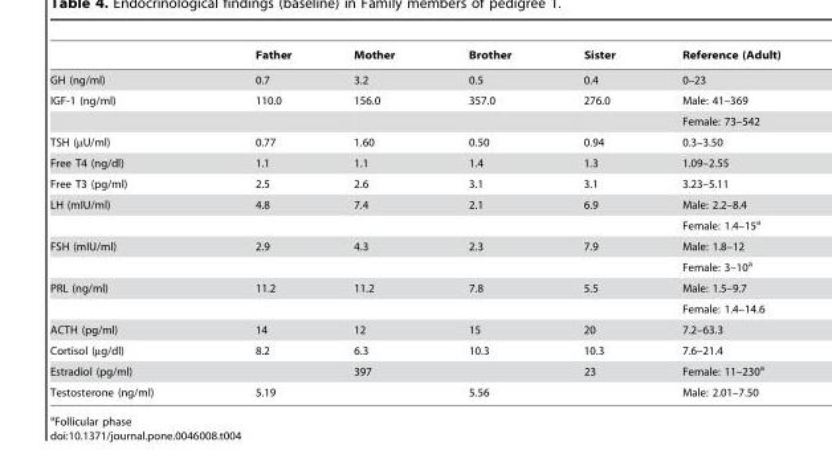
<table><thead><tr><td></td><td>Father</td><td>Mother</td><td>Brother</td><td>Sister</td><td>Reference (Adult)</td></tr></thead><tbody><tr><td>GH (ng/ml)</td><td>0.7</td><td>3.2</td><td>0.5</td><td>0.4</td><td>0–23</td></tr><tr><td rowspan="2">IGF-1 (ng/ml)</td><td>110.0</td><td>156.0</td><td>357.0</td><td>276.0</td><td>Male: 41–369</td></tr><tr><td></td><td></td><td></td><td></td><td>Female: 73–542</td></tr><tr><td>TSH (µU/ml)</td><td>0.77</td><td>1.60</td><td>0.50</td><td>0.94</td><td>0.3–3.50</td></tr><tr><td>Free T4 (ng/dl)</td><td>1.1</td><td>1.1</td><td>1.4</td><td>1.3</td><td>1.09–2.55</td></tr><tr><td>Free T3 (pg/ml)</td><td>2.5</td><td>2.6</td><td>3.1</td><td>3.1</td><td>3.23–5.11</td></tr><tr><td rowspan="2">LH (mIU/ml)</td><td>4.8</td><td>7.4</td><td>2.1</td><td>6.9</td><td>Male: 2.2–8.4</td></tr><tr><td></td><td></td><td></td><td></td><td>Female: 1.4–15<sup>a</sup></td></tr><tr><td rowspan="2">FSH (mIU/ml)</td><td>2.9</td><td>4.3</td><td>2.3</td><td>7.9</td><td>Male: 1.8–12</td></tr><tr><td></td><td></td><td></td><td></td><td>Female: 3–10<sup>a</sup></td></tr><tr><td rowspan="2">PRL (ng/ml)</td><td>11.2</td><td>11.2</td><td>7.8</td><td>5.5</td><td>Male: 1.5–9.7</td></tr><tr><td></td><td></td><td></td><td></td><td>Female: 1.4–14.6</td></tr><tr><td>ACTH (pg/ml)</td><td>14</td><td>12</td><td>15</td><td>20</td><td>7.2–63.3</td></tr><tr><td>Cortisol (µg/dl)</td><td>8.2</td><td>6.3</td><td>10.3</td><td>10.3</td><td>7.6–21.4</td></tr><tr><td>Estradiol (pg/ml)</td><td></td><td>397</td><td></td><td>23</td><td>Female: 11–230<sup>a</sup></td></tr><tr><td>Testosterone (ng/ml)</td><td>5.19</td><td></td><td>5.56</td><td></td><td>Male: 2.01–7.50</td></tr></tbody></table>